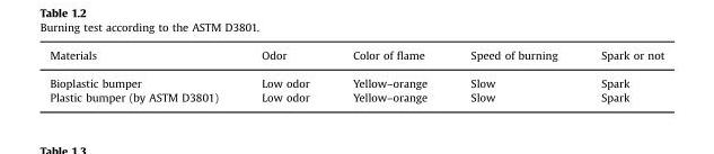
<table><thead><tr><td>Materials</td><td>Odor</td><td>Color of flame</td><td>Speed of burning</td><td>Spark or not</td></tr></thead><tbody><tr><td>Bioplastic bumper</td><td>Low odor</td><td>Yellow–orange</td><td>Slow</td><td>Spark</td></tr><tr><td>Plastic bumper (by ASTM D3801)</td><td>Low odor</td><td>Yellow–orange</td><td>Slow</td><td>Spark</td></tr></tbody></table>